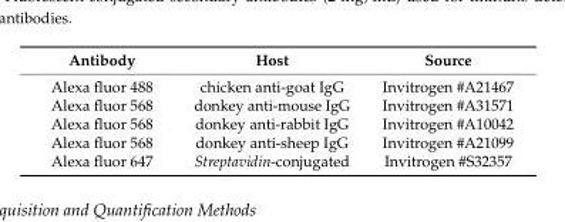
<table><thead><tr><td>Antibody</td><td>Host</td><td>Source</td></tr></thead><tbody><tr><td>Alexa fluor 488</td><td>chicken anti-goat IgG</td><td>Invitrogen #A21467</td></tr><tr><td>Alexa fluor 568</td><td>donkey anti-mouse IgG</td><td>Invitrogen #A31571</td></tr><tr><td>Alexa fluor 568</td><td>donkey anti-rabbit IgG</td><td>Invitrogen #A10042</td></tr><tr><td>Alexa fluor 568</td><td>donkey anti-sheep IgG</td><td>Invitrogen #A21099</td></tr><tr><td>Alexa fluor 647</td><td>Streptavidin-conjugated</td><td>Invitrogen #S32357</td></tr></tbody></table>